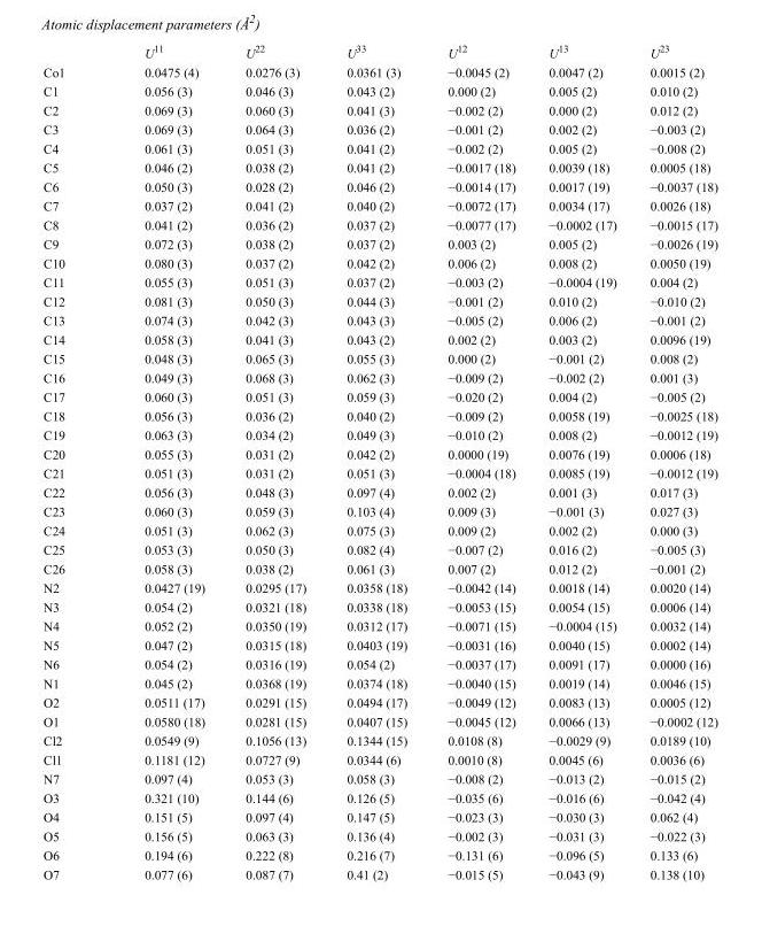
<table><thead><tr><td></td><td>U<sup>11</sup></td><td>U<sup>22</sup></td><td>U<sup>33</sup></td><td>U<sup>12</sup></td><td>U<sup>13</sup></td><td>U<sup>23</sup></td></tr></thead><tbody><tr><td>Co1</td><td>0.0475 (4)</td><td>0.0276 (3)</td><td>0.0361 (3)</td><td>−0.0045 (2)</td><td>0.0047 (2)</td><td>0.0015 (2)</td></tr><tr><td>C1</td><td>0.056 (3)</td><td>0.046 (3)</td><td>0.043 (2)</td><td>0.000 (2)</td><td>0.005 (2)</td><td>0.010 (2)</td></tr><tr><td>C2</td><td>0.069 (3)</td><td>0.060 (3)</td><td>0.041 (3)</td><td>−0.002 (2)</td><td>0.000 (2)</td><td>0.012 (2)</td></tr><tr><td>C3</td><td>0.069 (3)</td><td>0.064 (3)</td><td>0.036 (2)</td><td>−0.001 (2)</td><td>0.002 (2)</td><td>−0.003 (2)</td></tr><tr><td>C4</td><td>0.061 (3)</td><td>0.051 (3)</td><td>0.041 (2)</td><td>−0.002 (2)</td><td>0.005 (2)</td><td>−0.008 (2)</td></tr><tr><td>C5</td><td>0.046 (2)</td><td>0.038 (2)</td><td>0.041 (2)</td><td>−0.0017 (18)</td><td>0.0039 (18)</td><td>0.0005 (18)</td></tr><tr><td>C6</td><td>0.050 (3)</td><td>0.028 (2)</td><td>0.046 (2)</td><td>−0.0014 (17)</td><td>0.0017 (19)</td><td>−0.0037 (18)</td></tr><tr><td>C7</td><td>0.037 (2)</td><td>0.041 (2)</td><td>0.040 (2)</td><td>−0.0072 (17)</td><td>0.0034 (17)</td><td>0.0026 (18)</td></tr><tr><td>C8</td><td>0.041 (2)</td><td>0.036 (2)</td><td>0.037 (2)</td><td>−0.0077 (17)</td><td>−0.0002 (17)</td><td>−0.0015 (17)</td></tr><tr><td>C9</td><td>0.072 (3)</td><td>0.038 (2)</td><td>0.037 (2)</td><td>0.003 (2)</td><td>0.005 (2)</td><td>−0.0026 (19)</td></tr><tr><td>C10</td><td>0.080 (3)</td><td>0.037 (2)</td><td>0.042 (2)</td><td>0.006 (2)</td><td>0.008 (2)</td><td>0.0050 (19)</td></tr><tr><td>C11</td><td>0.055 (3)</td><td>0.051 (3)</td><td>0.037 (2)</td><td>−0.003 (2)</td><td>−0.0004 (19)</td><td>0.004 (2)</td></tr><tr><td>C12</td><td>0.081 (3)</td><td>0.050 (3)</td><td>0.044 (3)</td><td>−0.001 (2)</td><td>0.010 (2)</td><td>−0.010 (2)</td></tr><tr><td>C13</td><td>0.074 (3)</td><td>0.042 (3)</td><td>0.043 (3)</td><td>−0.005 (2)</td><td>0.006 (2)</td><td>−0.001 (2)</td></tr><tr><td>C14</td><td>0.058 (3)</td><td>0.041 (3)</td><td>0.043 (2)</td><td>0.002 (2)</td><td>0.003 (2)</td><td>0.0096 (19)</td></tr><tr><td>C15</td><td>0.048 (3)</td><td>0.065 (3)</td><td>0.055 (3)</td><td>0.000 (2)</td><td>−0.001 (2)</td><td>0.008 (2)</td></tr><tr><td>C16</td><td>0.049 (3)</td><td>0.068 (3)</td><td>0.062 (3)</td><td>−0.009 (2)</td><td>−0.002 (2)</td><td>0.001 (3)</td></tr><tr><td>C17</td><td>0.060 (3)</td><td>0.051 (3)</td><td>0.059 (3)</td><td>−0.020 (2)</td><td>0.004 (2)</td><td>−0.005 (2)</td></tr><tr><td>C18</td><td>0.056 (3)</td><td>0.036 (2)</td><td>0.040 (2)</td><td>−0.009 (2)</td><td>0.0058 (19)</td><td>−0.0025 (18)</td></tr><tr><td>C19</td><td>0.063 (3)</td><td>0.034 (2)</td><td>0.049 (3)</td><td>−0.010 (2)</td><td>0.008 (2)</td><td>−0.0012 (19)</td></tr><tr><td>C20</td><td>0.055 (3)</td><td>0.031 (2)</td><td>0.042 (2)</td><td>0.0000 (19)</td><td>0.0076 (19)</td><td>0.0006 (18)</td></tr><tr><td>C21</td><td>0.051 (3)</td><td>0.031 (2)</td><td>0.051 (3)</td><td>−0.0004 (18)</td><td>0.0085 (19)</td><td>−0.0012 (19)</td></tr><tr><td>C22</td><td>0.056 (3)</td><td>0.048 (3)</td><td>0.097 (4)</td><td>0.002 (2)</td><td>0.001 (3)</td><td>0.017 (3)</td></tr><tr><td>C23</td><td>0.060 (3)</td><td>0.059 (3)</td><td>0.103 (4)</td><td>0.009 (3)</td><td>−0.001 (3)</td><td>0.027 (3)</td></tr><tr><td>C24</td><td>0.051 (3)</td><td>0.062 (3)</td><td>0.075 (3)</td><td>0.009 (2)</td><td>0.002 (2)</td><td>0.000 (3)</td></tr><tr><td>C25</td><td>0.053 (3)</td><td>0.050 (3)</td><td>0.082 (4)</td><td>−0.007 (2)</td><td>0.016 (2)</td><td>−0.005 (3)</td></tr><tr><td>C26</td><td>0.058 (3)</td><td>0.038 (2)</td><td>0.061 (3)</td><td>0.007 (2)</td><td>0.012 (2)</td><td>−0.001 (2)</td></tr><tr><td>N2</td><td>0.0427 (19)</td><td>0.0295 (17)</td><td>0.0358 (18)</td><td>−0.0042 (14)</td><td>0.0018 (14)</td><td>0.0020 (14)</td></tr><tr><td>N3</td><td>0.054 (2)</td><td>0.0321 (18)</td><td>0.0338 (18)</td><td>−0.0053 (15)</td><td>0.0054 (15)</td><td>0.0006 (14)</td></tr><tr><td>N4</td><td>0.052 (2)</td><td>0.0350 (19)</td><td>0.0312 (17)</td><td>−0.0071 (15)</td><td>−0.0004 (15)</td><td>0.0032 (14)</td></tr><tr><td>N5</td><td>0.047 (2)</td><td>0.0315 (18)</td><td>0.0403 (19)</td><td>−0.0031 (16)</td><td>0.0040 (15)</td><td>0.0002 (14)</td></tr><tr><td>N6</td><td>0.054 (2)</td><td>0.0316 (19)</td><td>0.054 (2)</td><td>−0.0037 (17)</td><td>0.0091 (17)</td><td>0.0000 (16)</td></tr><tr><td>N1</td><td>0.045 (2)</td><td>0.0368 (19)</td><td>0.0374 (18)</td><td>−0.0040 (15)</td><td>0.0019 (14)</td><td>0.0046 (15)</td></tr><tr><td>O2</td><td>0.0511 (17)</td><td>0.0291 (15)</td><td>0.0494 (17)</td><td>−0.0049 (12)</td><td>0.0083 (13)</td><td>0.0005 (12)</td></tr><tr><td>O1</td><td>0.0580 (18)</td><td>0.0281 (15)</td><td>0.0407 (15)</td><td>−0.0045 (12)</td><td>0.0066 (13)</td><td>−0.0002 (12)</td></tr><tr><td>Cl2</td><td>0.0549 (9)</td><td>0.1056 (13)</td><td>0.1344 (15)</td><td>0.0108 (8)</td><td>−0.0029 (9)</td><td>0.0189 (10)</td></tr><tr><td>Cl1</td><td>0.1181 (12)</td><td>0.0727 (9)</td><td>0.0344 (6)</td><td>0.0010 (8)</td><td>0.0045 (6)</td><td>0.0036 (6)</td></tr><tr><td>N7</td><td>0.097 (4)</td><td>0.053 (3)</td><td>0.058 (3)</td><td>−0.008 (2)</td><td>−0.013 (2)</td><td>−0.015 (2)</td></tr><tr><td>O3</td><td>0.321 (10)</td><td>0.144 (6)</td><td>0.126 (5)</td><td>−0.035 (6)</td><td>−0.016 (6)</td><td>−0.042 (4)</td></tr><tr><td>O4</td><td>0.151 (5)</td><td>0.097 (4)</td><td>0.147 (5)</td><td>−0.023 (3)</td><td>−0.030 (3)</td><td>0.062 (4)</td></tr><tr><td>O5</td><td>0.156 (5)</td><td>0.063 (3)</td><td>0.136 (4)</td><td>−0.002 (3)</td><td>−0.031 (3)</td><td>−0.022 (3)</td></tr><tr><td>O6</td><td>0.194 (6)</td><td>0.222 (8)</td><td>0.216 (7)</td><td>−0.131 (6)</td><td>−0.096 (5)</td><td>0.133 (6)</td></tr><tr><td>O7</td><td>0.077 (6)</td><td>0.087 (7)</td><td>0.41 (2)</td><td>−0.015 (5)</td><td>−0.043 (9)</td><td>0.138 (10)</td></tr></tbody></table>